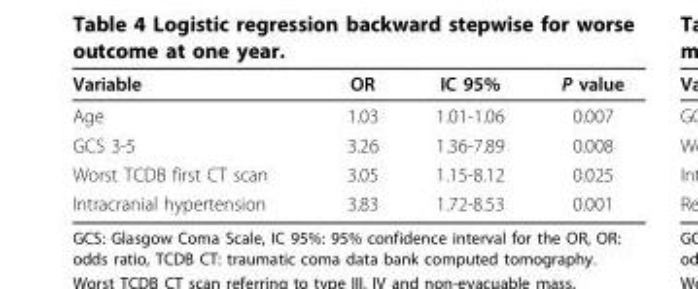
<table><thead><tr><td>Variable</td><td>OR</td><td>IC 95%</td><td>P value</td></tr></thead><tbody><tr><td>Age</td><td>1.03</td><td>1.01-1.06</td><td>0.007</td></tr><tr><td>GCS 3-5</td><td>3.26</td><td>1.36-7.89</td><td>0.008</td></tr><tr><td>Worst TCDB first CT scan</td><td>3.05</td><td>1.15-8.12</td><td>0.025</td></tr><tr><td>Intracranial hypertension</td><td>3.83</td><td>1.72-8.53</td><td>0.001</td></tr></tbody></table>